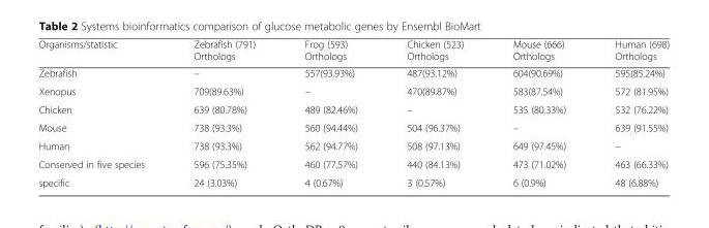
<table><thead><tr><td>Organisms/statistic</td><td>Zebrafish (791) Orthologs</td><td>Frog (593) Orthologs</td><td>Chicken (523) Orthologs</td><td>Mouse (666) Orthologs</td><td>Human (698) Orthologs</td></tr></thead><tbody><tr><td>Zebrafish</td><td>–</td><td>557(93.93%)</td><td>487(93.12%)</td><td>604(90.69%)</td><td>595(85.24%)</td></tr><tr><td>Xenopus</td><td>709(89.63%)</td><td>–</td><td>470(89.87%)</td><td>583(87.54%)</td><td>572 (81.95%)</td></tr><tr><td>Chicken</td><td>639 (80.78%)</td><td>489 (82.46%)</td><td>–</td><td>535 (80.33%)</td><td>532 (76.22%)</td></tr><tr><td>Mouse</td><td>738 (93.3%)</td><td>560 (94.44%)</td><td>504 (96.37%)</td><td>–</td><td>639 (91.55%)</td></tr><tr><td>Human</td><td>738 (93.3%)</td><td>562 (94.77%)</td><td>508 (97.13%)</td><td>649 (97.45%)</td><td>–</td></tr><tr><td>Conserved in five species</td><td>596 (75.35%)</td><td>460 (77.57%)</td><td>440 (84.13%)</td><td>473 (71.02%)</td><td>463 (66.33%)</td></tr><tr><td>specific</td><td>24 (3.03%)</td><td>4 (0.67%)</td><td>3 (0.57%)</td><td>6 (0.9%)</td><td>48 (6.88%)</td></tr></tbody></table>